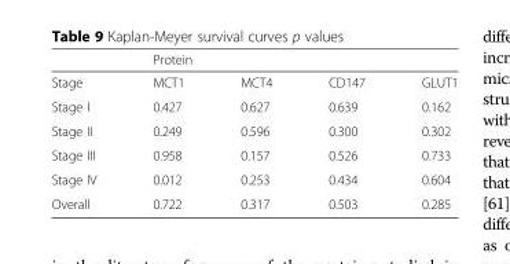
<table><thead><tr><td rowspan="2">Stage</td><td colspan="4">Protein</td></tr><tr><td>MCT1</td><td>MCT4</td><td>CD147</td><td>GLUT1</td></tr></thead><tbody><tr><td>Stage I</td><td>0.427</td><td>0.627</td><td>0.639</td><td>0.162</td></tr><tr><td>Stage II</td><td>0.249</td><td>0.596</td><td>0.300</td><td>0.302</td></tr><tr><td>Stage III</td><td>0.958</td><td>0.157</td><td>0.526</td><td>0.733</td></tr><tr><td>Stage IV</td><td>0.012</td><td>0.253</td><td>0.434</td><td>0.604</td></tr><tr><td>Overall</td><td>0.722</td><td>0.317</td><td>0.503</td><td>0.285</td></tr></tbody></table>